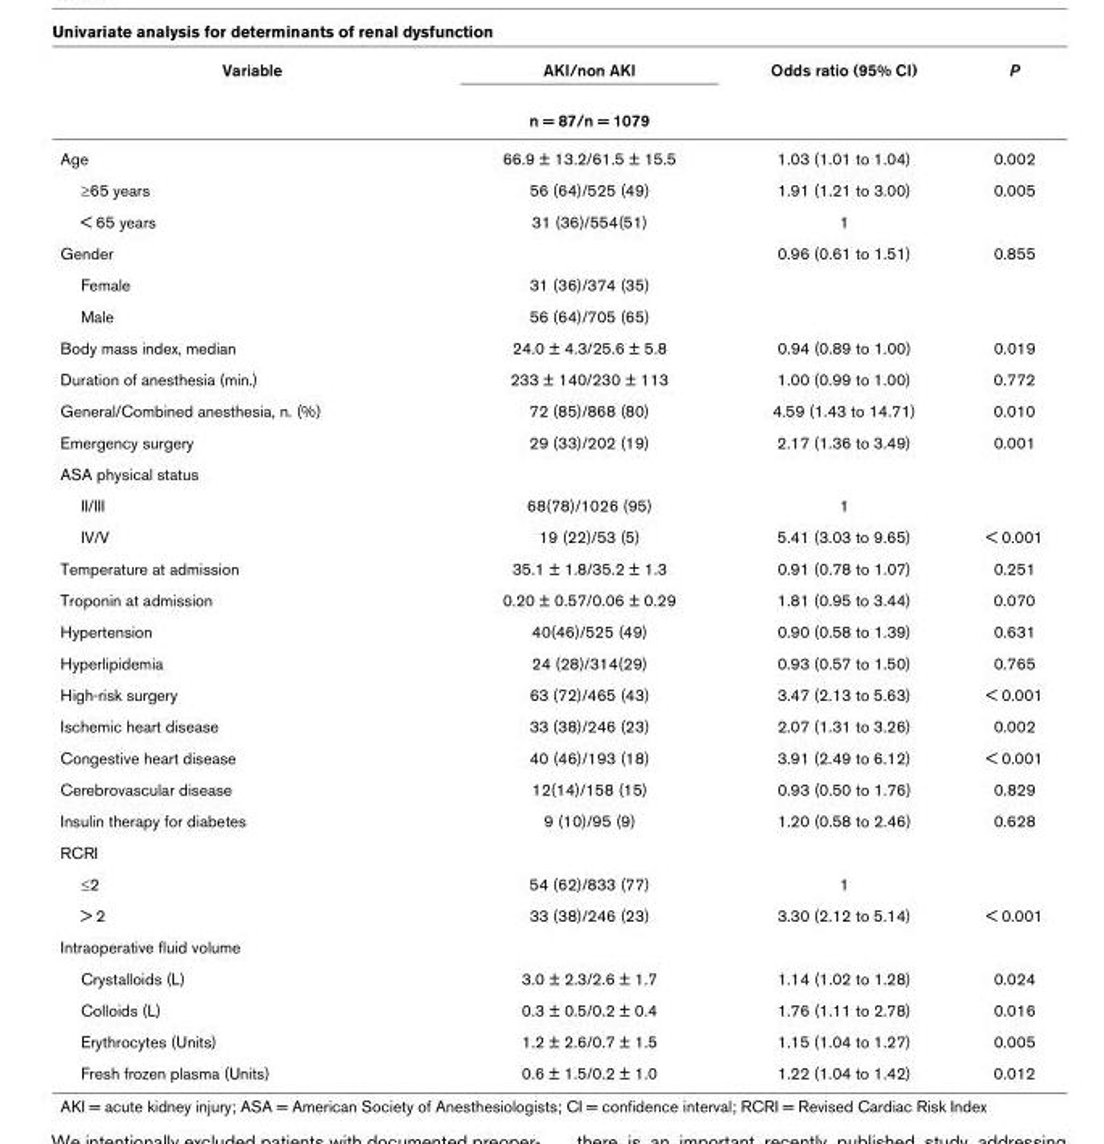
<table><thead><tr><td rowspan="2">Variable</td><td rowspan="2">AKI/non AKI n = 87/n = 1079</td><td rowspan="2">Odds ratio (95% CI)</td><td rowspan="2">P</td></tr><tr></tr></thead><tbody><tr><td>Age</td><td>66.9 ± 13.2/61.5 ± 15.5</td><td>1.03 (1.01 to 1.04)</td><td>0.002</td></tr><tr><td>≥65 years</td><td>56 (64)/525 (49)</td><td>1.91 (1.21 to 3.00)</td><td>0.005</td></tr><tr><td>&lt; 65 years</td><td>31 (36)/554(51)</td><td>1</td><td></td></tr><tr><td>Gender</td><td></td><td>0.96 (0.61 to 1.51)</td><td>0.855</td></tr><tr><td>Female</td><td>31 (36)/374 (35)</td><td></td><td></td></tr><tr><td>Male</td><td>56 (64)/705 (65)</td><td></td><td></td></tr><tr><td>Body mass index, median</td><td>24.0 ± 4.3/25.6 ± 5.8</td><td>0.94 (0.89 to 1.00)</td><td>0.019</td></tr><tr><td>Duration of anesthesia (min.)</td><td>233 ± 140/230 ± 113</td><td>1.00 (0.99 to 1.00)</td><td>0.772</td></tr><tr><td>General/Combined anesthesia, n. (%)</td><td>72 (85)/868 (80)</td><td>4.59 (1.43 to 14.71)</td><td>0.010</td></tr><tr><td>Emergency surgery</td><td>29 (33)/202 (19)</td><td>2.17 (1.36 to 3.49)</td><td>0.001</td></tr><tr><td colspan="4">ASA physical status</td></tr><tr><td>II/III</td><td>68(78)/1026 (95)</td><td>1</td><td></td></tr><tr><td>IV/V</td><td>19 (22)/53 (5)</td><td>5.41 (3.03 to 9.65)</td><td>&lt; 0.001</td></tr><tr><td>Temperature at admission</td><td>35.1 ± 1.8/35.2 ± 1.3</td><td>0.91 (0.78 to 1.07)</td><td>0.251</td></tr><tr><td>Troponin at admission</td><td>0.20 ± 0.57/0.06 ± 0.29</td><td>1.81 (0.95 to 3.44)</td><td>0.070</td></tr><tr><td>Hypertension</td><td>40(46)/525 (49)</td><td>0.90 (0.58 to 1.39)</td><td>0.631</td></tr><tr><td>Hyperlipidemia</td><td>24 (28)/314(29)</td><td>0.93 (0.57 to 1.50)</td><td>0.765</td></tr><tr><td>High-risk surgery</td><td>63 (72)/465 (43)</td><td>3.47 (2.13 to 5.63)</td><td>&lt; 0.001</td></tr><tr><td>Ischemic heart disease</td><td>33 (38)/246 (23)</td><td>2.07 (1.31 to 3.26)</td><td>0.002</td></tr><tr><td>Congestive heart disease</td><td>40 (46)/193 (18)</td><td>3.91 (2.49 to 6.12)</td><td>&lt; 0.001</td></tr><tr><td>Cerebrovascular disease</td><td>12(14)/158 (15)</td><td>0.93 (0.50 to 1.76)</td><td>0.829</td></tr><tr><td>Insulin therapy for diabetes</td><td>9 (10)/95 (9)</td><td>1.20 (0.58 to 2.46)</td><td>0.628</td></tr><tr><td colspan="4">RCRI</td></tr><tr><td>≤2</td><td>54 (62)/833 (77)</td><td>1</td><td></td></tr><tr><td>&gt; 2</td><td>33 (38)/246 (23)</td><td>3.30 (2.12 to 5.14)</td><td>&lt; 0.001</td></tr><tr><td colspan="4">Intraoperative fluid volume</td></tr><tr><td>Crystalloids (L)</td><td>3.0 ± 2.3/2.6 ± 1.7</td><td>1.14 (1.02 to 1.28)</td><td>0.024</td></tr><tr><td>Colloids (L)</td><td>0.3 ± 0.5/0.2 ± 0.4</td><td>1.76 (1.11 to 2.78)</td><td>0.016</td></tr><tr><td>Erythrocytes (Units)</td><td>1.2 ± 2.6/0.7 ± 1.5</td><td>1.15 (1.04 to 1.27)</td><td>0.005</td></tr><tr><td>Fresh frozen plasma (Units)</td><td>0.6 ± 1.5/0.2 ± 1.0</td><td>1.22 (1.04 to 1.42)</td><td>0.012</td></tr></tbody></table>